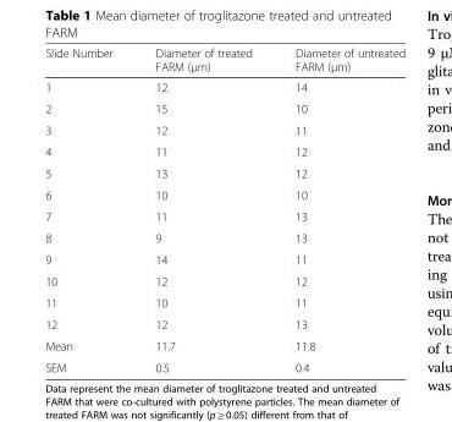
<table><thead><tr><td>Slide Number</td><td>Diameter of treated FARM (μm)</td><td>Diameter of untreated FARM (μm)</td></tr></thead><tbody><tr><td>1</td><td>12</td><td>14</td></tr><tr><td>2</td><td>15</td><td>10</td></tr><tr><td>3</td><td>12</td><td>11</td></tr><tr><td>4</td><td>11</td><td>12</td></tr><tr><td>5</td><td>13</td><td>12</td></tr><tr><td>6</td><td>10</td><td>10</td></tr><tr><td>7</td><td>11</td><td>13</td></tr><tr><td>8</td><td>9</td><td>13</td></tr><tr><td>9</td><td>14</td><td>11</td></tr><tr><td>10</td><td>12</td><td>12</td></tr><tr><td>11</td><td>10</td><td>11</td></tr><tr><td>12</td><td>12</td><td>13</td></tr><tr><td>Mean</td><td>11.7</td><td>11.8</td></tr><tr><td>SEM</td><td>0.5</td><td>0.4</td></tr></tbody></table>